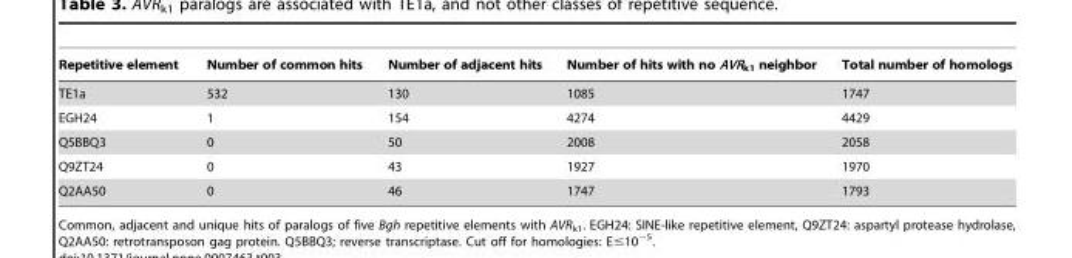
<table><thead><tr><td>Repetitive element</td><td>Number of common hits</td><td>Number of adjacent hits</td><td>Number of hits with no AVR<sub>k1</sub> neighbor</td><td>Total number of homologs</td></tr></thead><tbody><tr><td>TE1a</td><td>532</td><td>130</td><td>1085</td><td>1747</td></tr><tr><td>EGH24</td><td>1</td><td>154</td><td>4274</td><td>4429</td></tr><tr><td>Q5BBQ3</td><td>0</td><td>50</td><td>2008</td><td>2058</td></tr><tr><td>Q9ZT24</td><td>0</td><td>43</td><td>1927</td><td>1970</td></tr><tr><td>Q2AA50</td><td>0</td><td>46</td><td>1747</td><td>1793</td></tr></tbody></table>